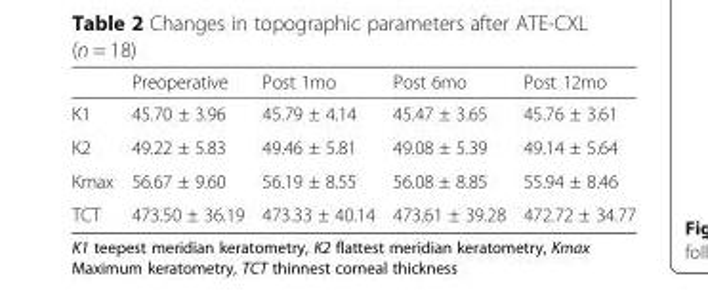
<table><thead><tr><td></td><td>Preoperative</td><td>Post 1mo</td><td>Post 6mo</td><td>Post 12mo</td></tr></thead><tbody><tr><td>K1</td><td>45.70 ± 3.96</td><td>45.79 ± 4.14</td><td>45.47 ± 3.65</td><td>45.76 ± 3.61</td></tr><tr><td>K2</td><td>49.22 ± 5.83</td><td>49.46 ± 5.81</td><td>49.08 ± 5.39</td><td>49.14 ± 5.64</td></tr><tr><td>Kmax</td><td>56.67 ± 9.60</td><td>56.19 ± 8.55</td><td>56.08 ± 8.85</td><td>55.94 ± 8.46</td></tr><tr><td>TCT</td><td>473.50 ± 36.19</td><td>473.33 ± 40.14</td><td>473.61 ± 39.28</td><td>472.72 ± 34.77</td></tr></tbody></table>